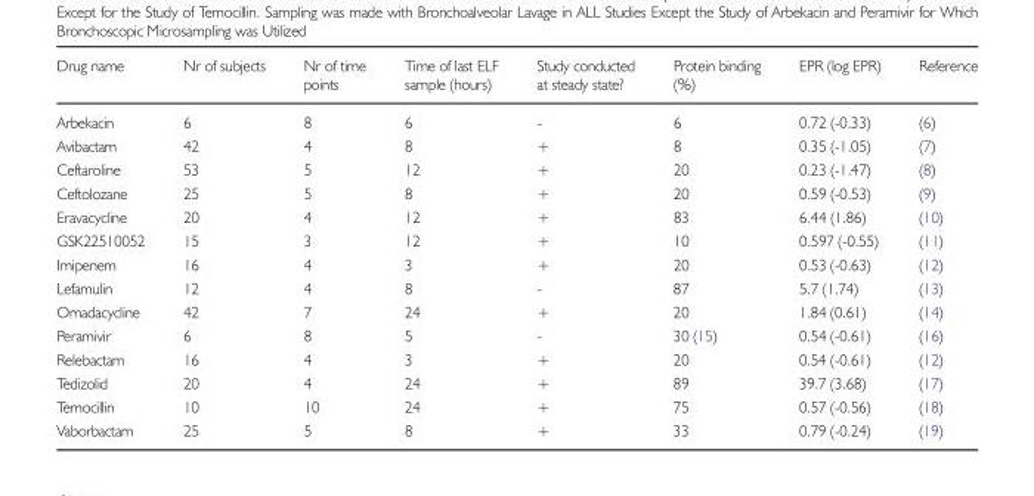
<table><thead><tr><td>Drug name</td><td>Nr of subjects</td><td>Nr of time points</td><td>Time of last ELF sample (hours)</td><td>Study conducted at steady state?</td><td>Protein binding (%)</td><td>EPR (log EPR)</td><td>Reference</td></tr></thead><tbody><tr><td>Arbekacin</td><td>6</td><td>8</td><td>6</td><td>-</td><td>6</td><td>0.72 (-0.33)</td><td>(6)</td></tr><tr><td>Avibactam</td><td>42</td><td>4</td><td>8</td><td>+</td><td>8</td><td>0.35 (-1.05)</td><td>(7)</td></tr><tr><td>Ceftaroline</td><td>53</td><td>5</td><td>12</td><td>+</td><td>20</td><td>0.23 (-1.47)</td><td>(8)</td></tr><tr><td>Ceftolozane</td><td>25</td><td>5</td><td>8</td><td>+</td><td>20</td><td>0.59 (-0.53)</td><td>(9)</td></tr><tr><td>Eravacycline</td><td>20</td><td>4</td><td>12</td><td>+</td><td>83</td><td>6.44 (1.86)</td><td>(10)</td></tr><tr><td>GSK22510052</td><td>15</td><td>3</td><td>12</td><td>+</td><td>10</td><td>0.597 (-0.55)</td><td>(11)</td></tr><tr><td>Imipenem</td><td>16</td><td>4</td><td>3</td><td>+</td><td>20</td><td>0.53 (-0.63)</td><td>(12)</td></tr><tr><td>Lefamulin</td><td>12</td><td>4</td><td>8</td><td>-</td><td>87</td><td>5.7 (1.74)</td><td>(13)</td></tr><tr><td>Omadacycline</td><td>42</td><td>7</td><td>24</td><td>+</td><td>20</td><td>1.84 (0.61)</td><td>(14)</td></tr><tr><td>Peramivir</td><td>6</td><td>8</td><td>5</td><td>-</td><td>30 (15)</td><td>0.54 (-0.61)</td><td>(16)</td></tr><tr><td>Relebactam</td><td>16</td><td>4</td><td>3</td><td>+</td><td>20</td><td>0.54 (-0.61)</td><td>(12)</td></tr><tr><td>Tedizolid</td><td>20</td><td>4</td><td>24</td><td>+</td><td>89</td><td>39.7 (3.68)</td><td>(17)</td></tr><tr><td>Temocillin</td><td>10</td><td>10</td><td>24</td><td>+</td><td>75</td><td>0.57 (-0.56)</td><td>(18)</td></tr><tr><td>Vaborbactam</td><td>25</td><td>5</td><td>8</td><td>+</td><td>33</td><td>0.79 (-0.24)</td><td>(19)</td></tr></tbody></table>